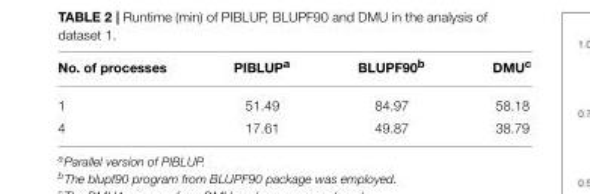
<table><thead><tr><td>No. of processes</td><td>PIBLUP<sup>a</sup></td><td>BLUPF90<sup>b</sup></td><td>DMU<sup>c</sup></td></tr></thead><tbody><tr><td>1</td><td>51.49</td><td>84.97</td><td>58.18</td></tr><tr><td>4</td><td>17.61</td><td>49.87</td><td>38.79</td></tr></tbody></table>